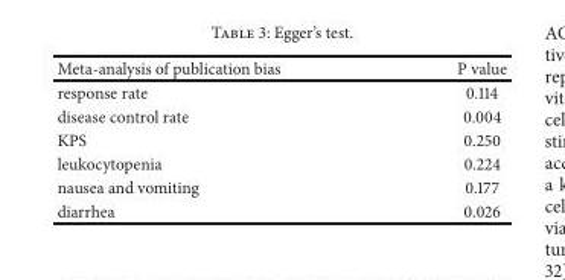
<table><thead><tr><td>Meta-analysis of publication bias</td><td>P value</td></tr></thead><tbody><tr><td>response rate</td><td>0.114</td></tr><tr><td>disease control rate</td><td>0.004</td></tr><tr><td>KPS</td><td>0.250</td></tr><tr><td>leukocytopenia</td><td>0.224</td></tr><tr><td>nausea and vomiting</td><td>0.177</td></tr><tr><td>diarrhea</td><td>0.026</td></tr></tbody></table>